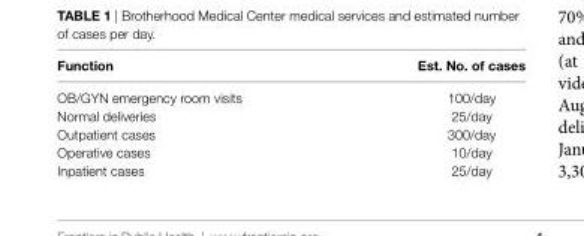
<table><thead><tr><td>Function</td><td>est. no. of cases</td></tr></thead><tbody><tr><td>OB/GYN emergency room visits</td><td>100/day</td></tr><tr><td>Normal deliveries</td><td>25/day</td></tr><tr><td>Outpatient cases</td><td>300/day</td></tr><tr><td>Operative cases</td><td>10/day</td></tr><tr><td>Inpatient cases</td><td>25/day</td></tr></tbody></table>